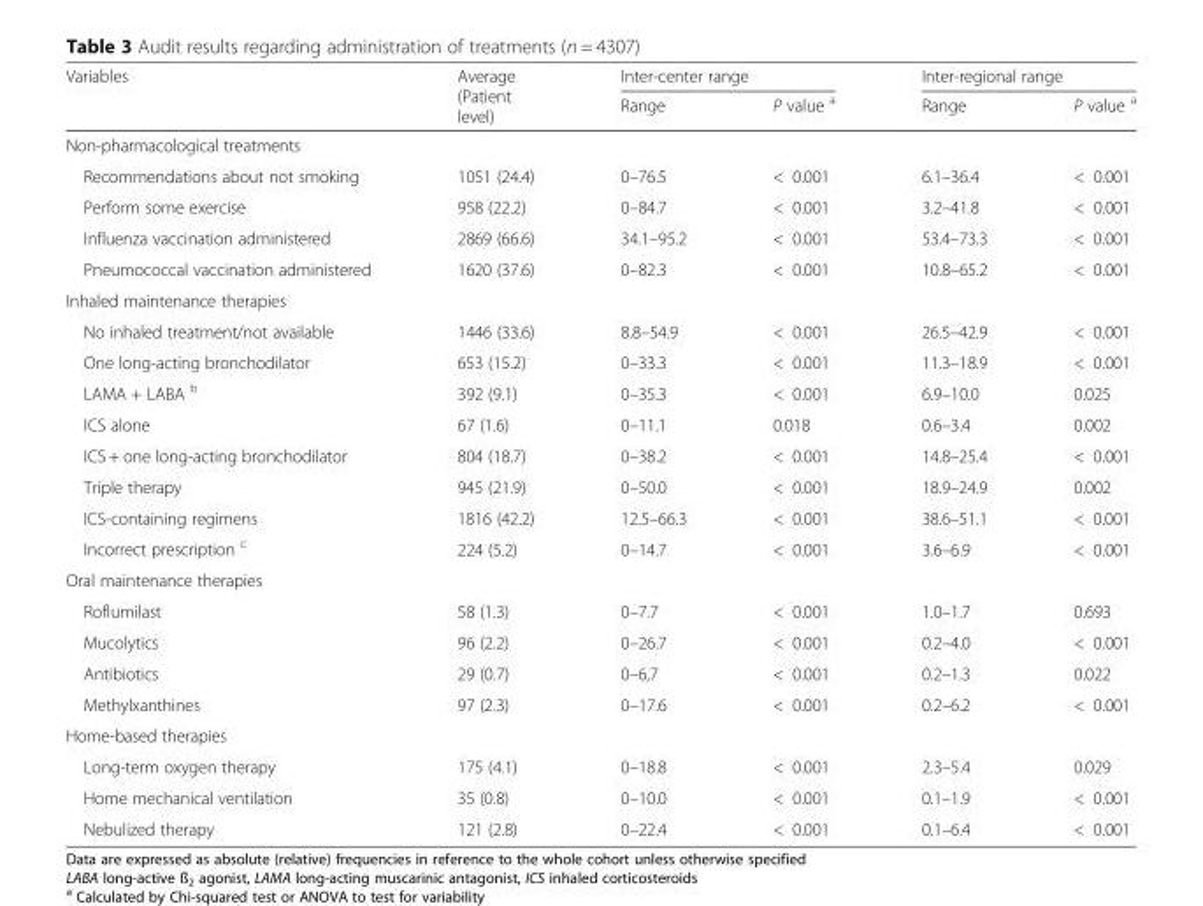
<table><thead><tr><td rowspan="2">Variables</td><td rowspan="2">Average (Patient level)</td><td colspan="2">Inter-center range</td><td colspan="2">Inter-regional range</td></tr><tr><td>Range</td><td>P value <sup>a</sup></td><td>Range</td><td>P value <sup>a</sup></td></tr></thead><tbody><tr><td colspan="6">Non-pharmacological treatments</td></tr><tr><td>Recommendations about not smoking</td><td>1051 (24.4)</td><td>0–76.5</td><td>&lt; 0.001</td><td>6.1–36.4</td><td>&lt; 0.001</td></tr><tr><td>Perform some exercise</td><td>958 (22.2)</td><td>0–84.7</td><td>&lt; 0.001</td><td>3.2–41.8</td><td>&lt; 0.001</td></tr><tr><td>Influenza vaccination administered</td><td>2869 (66.6)</td><td>34.1–95.2</td><td>&lt; 0.001</td><td>53.4–73.3</td><td>&lt; 0.001</td></tr><tr><td>Pneumococcal vaccination administered</td><td>1620 (37.6)</td><td>0–82.3</td><td>&lt; 0.001</td><td>10.8–65.2</td><td>&lt; 0.001</td></tr><tr><td colspan="6">Inhaled maintenance therapies</td></tr><tr><td>No inhaled treatment/not available</td><td>1446 (33.6)</td><td>8.8–54.9</td><td>&lt; 0.001</td><td>26.5–42.9</td><td>&lt; 0.001</td></tr><tr><td>One long-acting bronchodilator</td><td>653 (15.2)</td><td>0–33.3</td><td>&lt; 0.001</td><td>11.3–18.9</td><td>&lt; 0.001</td></tr><tr><td>LAMA + LABA <sup>b</sup></td><td>392 (9.1)</td><td>0–35.3</td><td>&lt; 0.001</td><td>6.9–10.0</td><td>0.025</td></tr><tr><td>ICS alone</td><td>67 (1.6)</td><td>0–11.1</td><td>0.018</td><td>0.6–3.4</td><td>0.002</td></tr><tr><td>ICS + one long-acting bronchodilator</td><td>804 (18.7)</td><td>0–38.2</td><td>&lt; 0.001</td><td>14.8–25.4</td><td>&lt; 0.001</td></tr><tr><td>Triple therapy</td><td>945 (21.9)</td><td>0–50.0</td><td>&lt; 0.001</td><td>18.9–24.9</td><td>0.002</td></tr><tr><td>ICS-containing regimens</td><td>1816 (42.2)</td><td>12.5–66.3</td><td>&lt; 0.001</td><td>38.6–51.1</td><td>&lt; 0.001</td></tr><tr><td>Incorrect prescription <sup>c</sup></td><td>224 (5.2)</td><td>0–14.7</td><td>&lt; 0.001</td><td>3.6–6.9</td><td>&lt; 0.001</td></tr><tr><td colspan="6">Oral maintenance therapies</td></tr><tr><td>Roflumilast</td><td>58 (1.3)</td><td>0–7.7</td><td>&lt; 0.001</td><td>1.0–1.7</td><td>0.693</td></tr><tr><td>Mucolytics</td><td>96 (2.2)</td><td>0–26.7</td><td>&lt; 0.001</td><td>0.2–4.0</td><td>&lt; 0.001</td></tr><tr><td>Antibiotics</td><td>29 (0.7)</td><td>0–6,7</td><td>&lt; 0.001</td><td>0.2–1.3</td><td>0.022</td></tr><tr><td>Methylxanthines</td><td>97 (2.3)</td><td>0–17.6</td><td>&lt; 0.001</td><td>0.2–6.2</td><td>&lt; 0.001</td></tr><tr><td colspan="6">Home-based therapies</td></tr><tr><td>Long-term oxygen therapy</td><td>175 (4.1)</td><td>0–18.8</td><td>&lt; 0.001</td><td>2.3–5.4</td><td>0.029</td></tr><tr><td>Home mechanical ventilation</td><td>35 (0.8)</td><td>0–10.0</td><td>&lt; 0.001</td><td>0.1–1.9</td><td>&lt; 0.001</td></tr><tr><td>Nebulized therapy</td><td>121 (2.8)</td><td>0–22.4</td><td>&lt; 0.001</td><td>0.1–6.4</td><td>&lt; 0.001</td></tr></tbody></table>